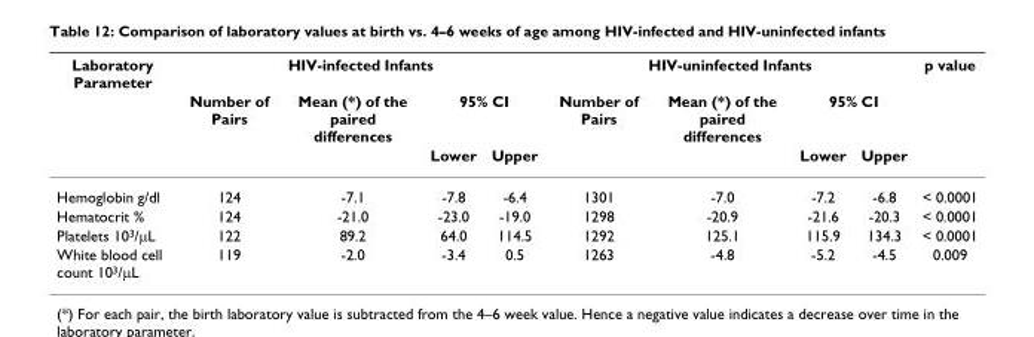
<table><thead><tr><td rowspan="3">Laboratory Parameter</td><td colspan="4">HIV-infected Infants</td><td colspan="4">HIV-uninfected Infants</td><td rowspan="3">p value</td></tr><tr><td rowspan="2">Number of Pairs</td><td rowspan="2">Mean (*) of the paired differences</td><td colspan="2">95% CI</td><td rowspan="2">Number of Pairs</td><td rowspan="2">Mean (*) of the paired differences</td><td colspan="2">95% CI</td></tr><tr><td>Lower</td><td>Upper</td><td>Lower</td><td>Upper</td></tr></thead><tbody><tr><td>Hemoglobin g/dl</td><td>124</td><td>-7.1</td><td>-7.8</td><td>-6.4</td><td>1301</td><td>-7.0</td><td>-7.2</td><td>-6.8</td><td>&lt; 0.0001</td></tr><tr><td>Hematocrit %</td><td>124</td><td>-21.0</td><td>-23.0</td><td>-19.0</td><td>1298</td><td>-20.9</td><td>-21.6</td><td>-20.3</td><td>&lt; 0.0001</td></tr><tr><td>Platelets 10<sup>3</sup>/μL</td><td>122</td><td>89.2</td><td>64.0</td><td>114.5</td><td>1292</td><td>125.1</td><td>115.9</td><td>134.3</td><td>&lt; 0.0001</td></tr><tr><td>White blood cell count 10<sup>3</sup>/μL</td><td>119</td><td>-2.0</td><td>-3.4</td><td>0.5</td><td>1263</td><td>-4.8</td><td>-5.2</td><td>-4.5</td><td>0.009</td></tr></tbody></table>